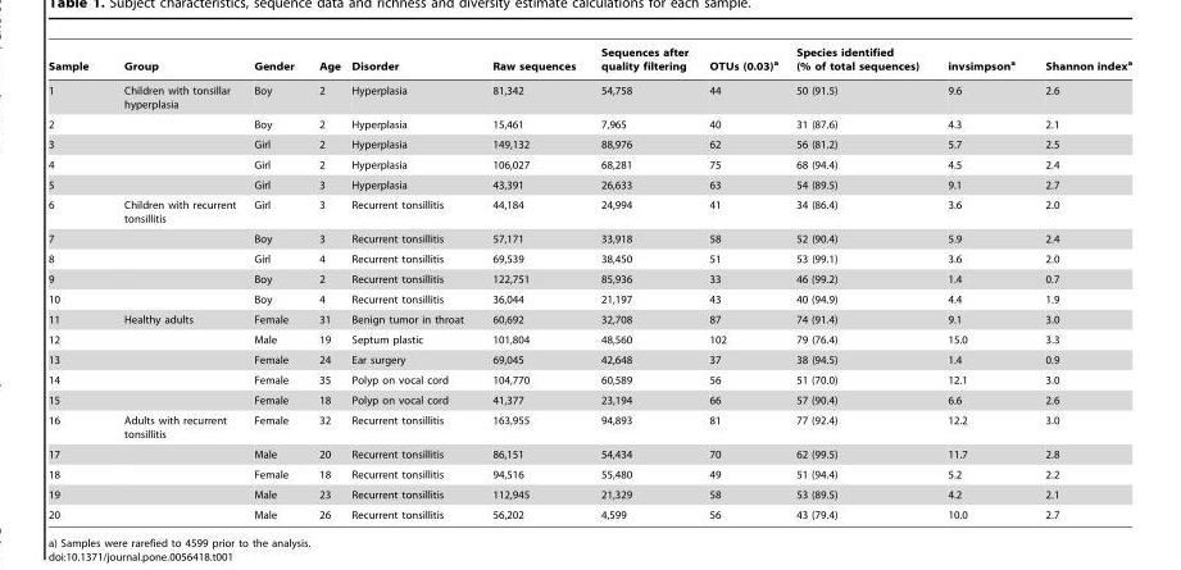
<table><thead><tr><td>Sample</td><td>Group</td><td>Gender</td><td>Age</td><td>Disorder</td><td>Raw sequences</td><td>Sequences after quality filtering</td><td>OTUs (0.03)<sup>a</sup></td><td>Species identified (% of total sequences)</td><td>invsimpson<sup>a</sup></td><td>Shannon index<sup>a</sup></td></tr></thead><tbody><tr><td>1</td><td>Children with tonsillar hyperplasia</td><td>Boy</td><td>2</td><td>Hyperplasia</td><td>81,342</td><td>54,758</td><td>44</td><td>50 (91.5)</td><td>9.6</td><td>2.6</td></tr><tr><td>2</td><td></td><td>Boy</td><td>2</td><td>Hyperplasia</td><td>15,461</td><td>7,965</td><td>40</td><td>31 (87.6)</td><td>4.3</td><td>2.1</td></tr><tr><td>3</td><td></td><td>Girl</td><td>2</td><td>Hyperplasia</td><td>149,132</td><td>88,976</td><td>62</td><td>56 (81.2)</td><td>5.7</td><td>2.5</td></tr><tr><td>4</td><td></td><td>Girl</td><td>2</td><td>Hyperplasia</td><td>106,027</td><td>68,281</td><td>75</td><td>68 (94.4)</td><td>4.5</td><td>2.4</td></tr><tr><td>5</td><td></td><td>Girl</td><td>3</td><td>Hyperplasia</td><td>43,391</td><td>26,633</td><td>63</td><td>54 (89.5)</td><td>9.1</td><td>2.7</td></tr><tr><td>6</td><td>Children with recurrent tonsillitis</td><td>Girl</td><td>3</td><td>Recurrent tonsillitis</td><td>44,184</td><td>24,994</td><td>41</td><td>34 (86.4)</td><td>3.6</td><td>2.0</td></tr><tr><td>7</td><td></td><td>Boy</td><td>3</td><td>Recurrent tonsillitis</td><td>57,171</td><td>33,918</td><td>58</td><td>52 (90.4)</td><td>5.9</td><td>2.4</td></tr><tr><td>8</td><td></td><td>Girl</td><td>4</td><td>Recurrent tonsillitis</td><td>69,539</td><td>38,450</td><td>51</td><td>53 (99.1)</td><td>3.6</td><td>2.0</td></tr><tr><td>9</td><td></td><td>Boy</td><td>2</td><td>Recurrent tonsillitis</td><td>122,751</td><td>85,936</td><td>33</td><td>46 (99.2)</td><td>1.4</td><td>0.7</td></tr><tr><td>10</td><td></td><td>Boy</td><td>4</td><td>Recurrent tonsillitis</td><td>36,044</td><td>21,197</td><td>43</td><td>40 (94.9)</td><td>4.4</td><td>1.9</td></tr><tr><td>11</td><td>Healthy adults</td><td>Female</td><td>31</td><td>Benign tumor in throat</td><td>60,692</td><td>32,708</td><td>87</td><td>74 (91.4)</td><td>9.1</td><td>3.0</td></tr><tr><td>12</td><td></td><td>Male</td><td>19</td><td>Septum plastic</td><td>101,804</td><td>48,560</td><td>102</td><td>79 (76.4)</td><td>15.0</td><td>3.3</td></tr><tr><td>13</td><td></td><td>Female</td><td>24</td><td>Ear surgery</td><td>69,045</td><td>42,648</td><td>37</td><td>38 (94.5)</td><td>1.4</td><td>0.9</td></tr><tr><td>14</td><td></td><td>Female</td><td>35</td><td>Polyp on vocal cord</td><td>104,770</td><td>60,589</td><td>56</td><td>51 (70.0)</td><td>12.1</td><td>3.0</td></tr><tr><td>15</td><td></td><td>Female</td><td>18</td><td>Polyp on vocal cord</td><td>41,377</td><td>23,194</td><td>66</td><td>57 (90.4)</td><td>6.6</td><td>2.6</td></tr><tr><td>16</td><td>Adults with recurrent tonsillitis</td><td>Female</td><td>32</td><td>Recurrent tonsillitis</td><td>163,955</td><td>94,893</td><td>81</td><td>77 (92.4)</td><td>12.2</td><td>3.0</td></tr><tr><td>17</td><td></td><td>Male</td><td>20</td><td>Recurrent tonsillitis</td><td>86,151</td><td>54,434</td><td>70</td><td>62 (99.5)</td><td>11.7</td><td>2.8</td></tr><tr><td>18</td><td></td><td>Female</td><td>18</td><td>Recurrent tonsillitis</td><td>94,516</td><td>55,480</td><td>49</td><td>51 (94.4)</td><td>5.2</td><td>2.2</td></tr><tr><td>19</td><td></td><td>Male</td><td>23</td><td>Recurrent tonsillitis</td><td>112,945</td><td>21,329</td><td>58</td><td>53 (89.5)</td><td>4.2</td><td>2.1</td></tr><tr><td>20</td><td></td><td>Male</td><td>26</td><td>Recurrent tonsillitis</td><td>56,202</td><td>4,599</td><td>56</td><td>43 (79.4)</td><td>10.0</td><td>2.7</td></tr></tbody></table>